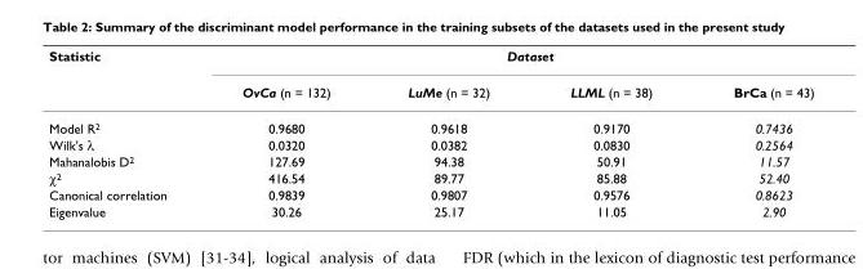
<table><thead><tr><td rowspan="2">Statistic</td><td colspan="4">Dataset</td></tr><tr><td>OvCa (n = 132)</td><td>LuMe (n = 32)</td><td>LLML (n = 38)</td><td>BrCa (n = 43)</td></tr></thead><tbody><tr><td>Model R<sup>2</sup></td><td>0.9680</td><td>0.9618</td><td>0.9170</td><td>0.7436</td></tr><tr><td>Wilk&#x27;s λ</td><td>0.0320</td><td>0.0382</td><td>0.0830</td><td>0.2564</td></tr><tr><td>Mahanalobis D<sup>2</sup></td><td>127.69</td><td>94.38</td><td>50.91</td><td>11.57</td></tr><tr><td>χ<sup>2</sup></td><td>416.54</td><td>89.77</td><td>85.88</td><td>52.40</td></tr><tr><td>Canonical correlation</td><td>0.9839</td><td>0.9807</td><td>0.9576</td><td>0.8623</td></tr><tr><td>Eigenvalue</td><td>30.26</td><td>25.17</td><td>11.05</td><td>2.90</td></tr></tbody></table>